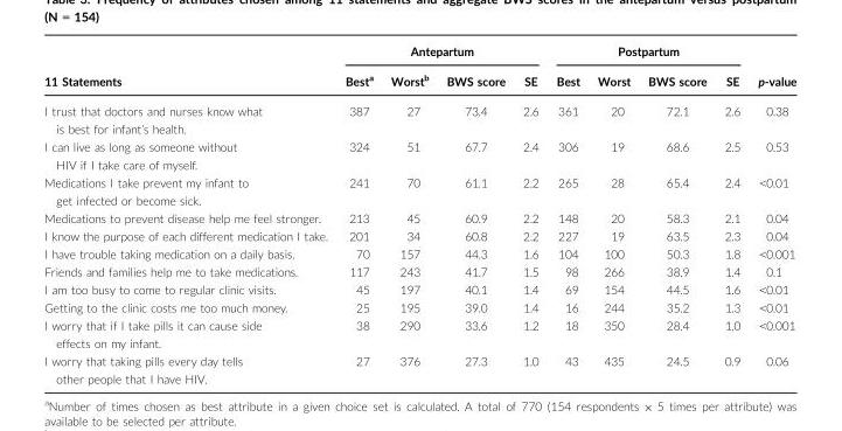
<table><thead><tr><td rowspan="2">11 Statements</td><td colspan="4">Antepartum</td><td colspan="4">Postpartum</td><td rowspan="2">p-value</td></tr><tr><td>Best<sup>a</sup></td><td>Worst<sup>b</sup></td><td>BWS score</td><td>SE</td><td>Best</td><td>Worst</td><td>BWS score</td><td>SE</td></tr></thead><tbody><tr><td>I trust that doctors and nurses know what is best for infant’s health.</td><td>387</td><td>27</td><td>73.4</td><td>2.6</td><td>361</td><td>20</td><td>72.1</td><td>2.6</td><td>0.38</td></tr><tr><td>I can live as long as someone without HIV if I take care of myself.</td><td>324</td><td>51</td><td>67.7</td><td>2.4</td><td>306</td><td>19</td><td>68.6</td><td>2.5</td><td>0.53</td></tr><tr><td>Medications I take prevent my infant to get infected or become sick.</td><td>241</td><td>70</td><td>61.1</td><td>2.2</td><td>265</td><td>28</td><td>65.4</td><td>2.4</td><td>&lt;0.01</td></tr><tr><td>Medications to prevent disease help me feel stronger.</td><td>213</td><td>45</td><td>60.9</td><td>2.2</td><td>148</td><td>20</td><td>58.3</td><td>2.1</td><td>0.04</td></tr><tr><td>I know the purpose of each different medication I take.</td><td>201</td><td>34</td><td>60.8</td><td>2.2</td><td>227</td><td>19</td><td>63.5</td><td>2.3</td><td>0.04</td></tr><tr><td>I have trouble taking medication on a daily basis.</td><td>70</td><td>157</td><td>44.3</td><td>1.6</td><td>104</td><td>100</td><td>50.3</td><td>1.8</td><td>&lt;0.001</td></tr><tr><td>Friends and families help me to take medications.</td><td>117</td><td>243</td><td>41.7</td><td>1.5</td><td>98</td><td>266</td><td>38.9</td><td>1.4</td><td>0.1</td></tr><tr><td>I am too busy to come to regular clinic visits.</td><td>45</td><td>197</td><td>40.1</td><td>1.4</td><td>69</td><td>154</td><td>44.5</td><td>1.6</td><td>&lt;0.01</td></tr><tr><td>Getting to the clinic costs me too much money.</td><td>25</td><td>195</td><td>39.0</td><td>1.4</td><td>16</td><td>244</td><td>35.2</td><td>1.3</td><td>&lt;0.01</td></tr><tr><td>I worry that if I take pills it can cause side effects on my infant.</td><td>38</td><td>290</td><td>33.6</td><td>1.2</td><td>18</td><td>350</td><td>28.4</td><td>1.0</td><td>&lt;0.001</td></tr><tr><td>I worry that taking pills every day tells other people that I have HIV.</td><td>27</td><td>376</td><td>27.3</td><td>1.0</td><td>43</td><td>435</td><td>24.5</td><td>0.9</td><td>0.06</td></tr></tbody></table>